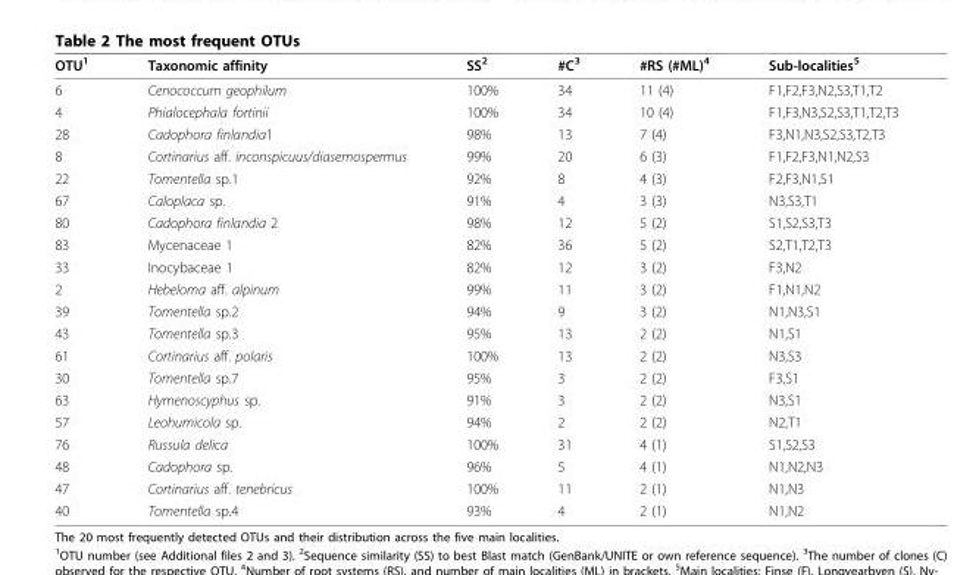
<table><thead><tr><td>OTU<sup>1</sup></td><td>Taxonomic affinity</td><td>SS<sup>2</sup></td><td>#C<sup>3</sup></td><td>#RS (#ML)<sup>4</sup></td><td>Sub-localities<sup>5</sup></td></tr></thead><tbody><tr><td>6</td><td>Cenococcum geophilum</td><td>100%</td><td>34</td><td>11 (4)</td><td>F1,F2,F3,N2,S3,T1,T2</td></tr><tr><td>4</td><td>Phialocephala fortinii</td><td>100%</td><td>34</td><td>10 (4)</td><td>F1,F3,N3,S2,S3,T1,T2,T3</td></tr><tr><td>28</td><td>Cadophora finlandia1</td><td>98%</td><td>13</td><td>7 (4)</td><td>F3,N1,N3,S2,S3,T2,T3</td></tr><tr><td>8</td><td>Cortinarius aff. inconspicuus/diasemospermus</td><td>99%</td><td>20</td><td>6 (3)</td><td>F1,F2,F3,N1,N2,S3</td></tr><tr><td>22</td><td>Tomentella sp.1</td><td>92%</td><td>8</td><td>4 (3)</td><td>F2,F3,N1,S1</td></tr><tr><td>67</td><td>Caloplaca sp.</td><td>91%</td><td>4</td><td>3 (3)</td><td>N3,S3,T1</td></tr><tr><td>80</td><td>Cadophora finlandia 2</td><td>98%</td><td>12</td><td>5 (2)</td><td>S1,S2,S3,T3</td></tr><tr><td>83</td><td>Mycenaceae 1</td><td>82%</td><td>36</td><td>5 (2)</td><td>S2,T1,T2,T3</td></tr><tr><td>33</td><td>Inocybaceae 1</td><td>82%</td><td>12</td><td>3 (2)</td><td>F3,N2</td></tr><tr><td>2</td><td>Hebeloma aff. alpinum</td><td>99%</td><td>11</td><td>3 (2)</td><td>F1,N1,N2</td></tr><tr><td>39</td><td>Tomentella sp.2</td><td>94%</td><td>9</td><td>3 (2)</td><td>N1,N3,S1</td></tr><tr><td>43</td><td>Tomentella sp.3</td><td>95%</td><td>13</td><td>2 (2)</td><td>N1,S1</td></tr><tr><td>61</td><td>Cortinarius aff. polaris</td><td>100%</td><td>13</td><td>2 (2)</td><td>N3,S3</td></tr><tr><td>30</td><td>Tomentella sp.7</td><td>95%</td><td>3</td><td>2 (2)</td><td>F3,S1</td></tr><tr><td>63</td><td>Hymenoscyphus sp.</td><td>91%</td><td>3</td><td>2 (2)</td><td>N3,S1</td></tr><tr><td>57</td><td>Leohumicola sp.</td><td>94%</td><td>2</td><td>2 (2)</td><td>N2,T1</td></tr><tr><td>76</td><td>Russula delica</td><td>100%</td><td>31</td><td>4 (1)</td><td>S1,S2,S3</td></tr><tr><td>48</td><td>Cadophora sp.</td><td>96%</td><td>5</td><td>4 (1)</td><td>N1,N2,N3</td></tr><tr><td>47</td><td>Cortinarius aff. tenebricus</td><td>100%</td><td>11</td><td>2 (1)</td><td>N1,N3</td></tr><tr><td>40</td><td>Tomentella sp.4</td><td>93%</td><td>4</td><td>2 (1)</td><td>N1,N2</td></tr></tbody></table>